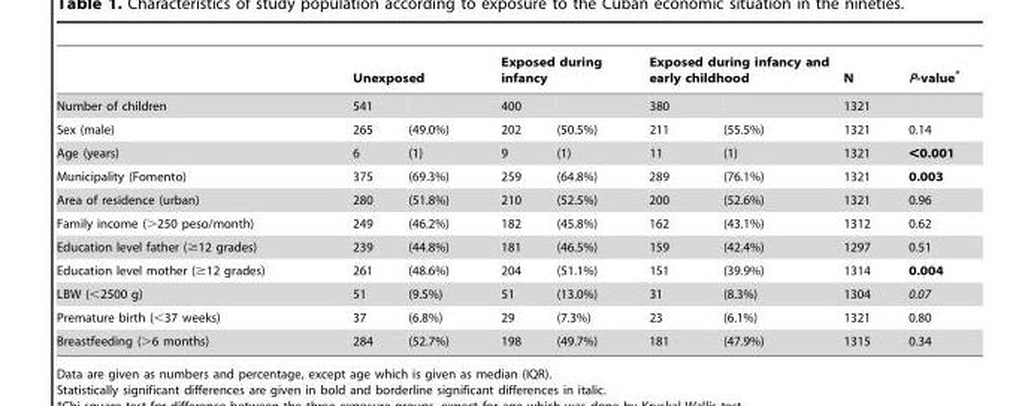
<table><thead><tr><td rowspan="2">Number of children</td><td colspan="2">Unexposed</td><td colspan="2">Exposed during infancy</td><td colspan="2">Exposed during infancy and early childhood</td><td rowspan="2">N 1321</td><td rowspan="2">P-value*</td></tr><tr><td>541</td><td></td><td>400</td><td></td><td>380</td><td></td></tr></thead><tbody><tr><td>Sex (male)</td><td>265</td><td>(49.0%)</td><td>202</td><td>(50.5%)</td><td>211</td><td>(55.5%)</td><td>1321</td><td>0.14</td></tr><tr><td>Age (years)</td><td>6</td><td>(1)</td><td>9</td><td>(1)</td><td>11</td><td>(1)</td><td>1321</td><td>&lt;0.001</td></tr><tr><td>Municipality (Fomento)</td><td>375</td><td>(69.3%)</td><td>259</td><td>(64.8%)</td><td>289</td><td>(76.1%)</td><td>1321</td><td>0.003</td></tr><tr><td>Area of residence (urban)</td><td>280</td><td>(51.8%)</td><td>210</td><td>(52.5%)</td><td>200</td><td>(52.6%)</td><td>1321</td><td>0.96</td></tr><tr><td>Family income (&gt;250 peso/month)</td><td>249</td><td>(46.2%)</td><td>182</td><td>(45.8%)</td><td>162</td><td>(43.1%)</td><td>1312</td><td>0.62</td></tr><tr><td>Education level father (≥12 grades)</td><td>239</td><td>(44.8%)</td><td>181</td><td>(46.5%)</td><td>159</td><td>(42.4%)</td><td>1297</td><td>0.51</td></tr><tr><td>Education level mother (≥12 grades)</td><td>261</td><td>(48.6%)</td><td>204</td><td>(51.1%)</td><td>151</td><td>(39.9%)</td><td>1314</td><td>0.004</td></tr><tr><td>LBW (&lt;2500 g)</td><td>51</td><td>(9.5%)</td><td>51</td><td>(13.0%)</td><td>31</td><td>(8.3%)</td><td>1304</td><td>0.07</td></tr><tr><td>Premature birth (&lt;37 weeks)</td><td>37</td><td>(6.8%)</td><td>29</td><td>(7.3%)</td><td>23</td><td>(6.1%)</td><td>1321</td><td>0.80</td></tr><tr><td>Breastfeeding (&gt;6 months)</td><td>284</td><td>(52.7%)</td><td>198</td><td>(49.7%)</td><td>181</td><td>(47.9%)</td><td>1315</td><td>0.34</td></tr></tbody></table>